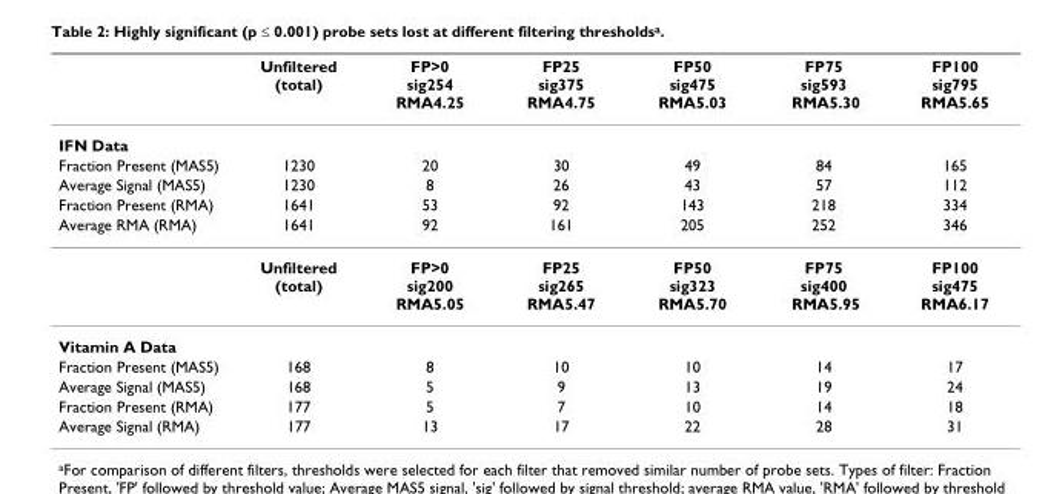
<table><thead><tr><td></td><td>Unfiltered (total)</td><td>FP&gt;0 sig254 RMA4.25</td><td>FP25 sig375 RMA4.75</td><td>FP50 sig475 RMA5.03</td><td>FP75 sig593 RMA5.30</td><td>FP100 sig795 RMA5.65</td></tr></thead><tbody><tr><td colspan="7">IFN Data</td></tr><tr><td>Fraction Present (MAS5)</td><td>1230</td><td>20</td><td>30</td><td>49</td><td>84</td><td>165</td></tr><tr><td>Average Signal (MAS5)</td><td>1230</td><td>8</td><td>26</td><td>43</td><td>57</td><td>112</td></tr><tr><td>Fraction Present (RMA)</td><td>1641</td><td>53</td><td>92</td><td>143</td><td>218</td><td>334</td></tr><tr><td rowspan="2">Average RMA (RMA)</td><td>1641</td><td>92</td><td>161</td><td>205</td><td>252</td><td>346</td></tr><tr><td>Unfiltered (total)</td><td>FP&gt;0 sig200 RMA5.05</td><td>FP25 sig265 RMA5.47</td><td>FP50 sig323 RMA5.70</td><td>FP75 sig400 RMA5.95</td><td>FP100 sig475 RMA6.17</td></tr><tr><td colspan="7">Vitamin A Data</td></tr><tr><td>Fraction Present (MAS5)</td><td>168</td><td>8</td><td>10</td><td>10</td><td>14</td><td>17</td></tr><tr><td>Average Signal (MAS5)</td><td>168</td><td>5</td><td>9</td><td>13</td><td>19</td><td>24</td></tr><tr><td>Fraction Present (RMA)</td><td>177</td><td>5</td><td>7</td><td>10</td><td>14</td><td>18</td></tr><tr><td>Average Signal (RMA)</td><td>177</td><td>13</td><td>17</td><td>22</td><td>28</td><td>31</td></tr></tbody></table>